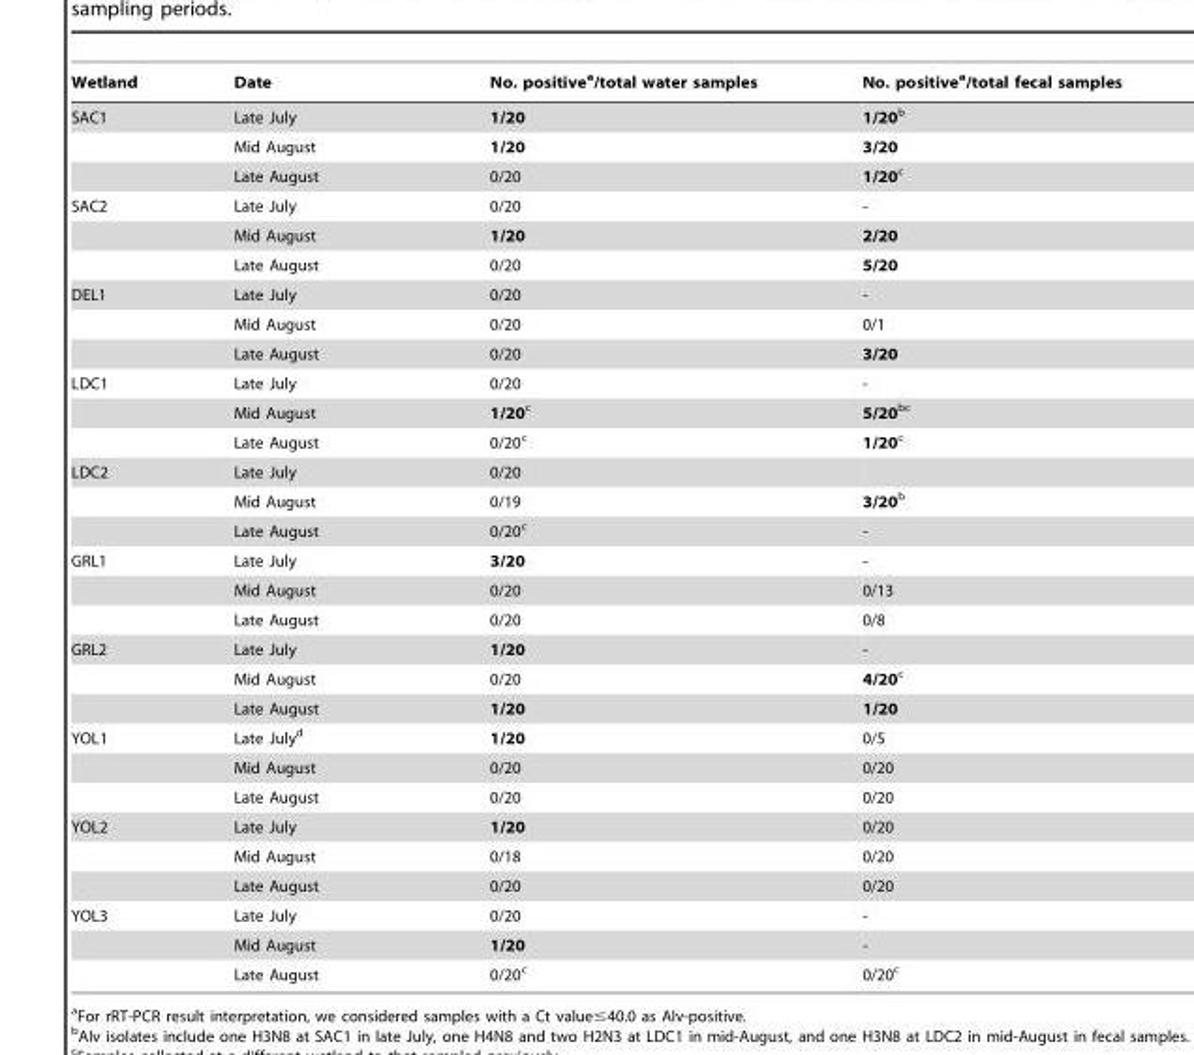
<table><thead><tr><td>Wetland</td><td>Date</td><td>No. positive<sup>a</sup>/total water samples</td><td>No. positive<sup>a</sup>/total fecal samples</td></tr></thead><tbody><tr><td rowspan="3">SAC1</td><td>Late July</td><td>1/20</td><td>1/20b</td></tr><tr><td>Mid August</td><td>1/20</td><td>3/20</td></tr><tr><td>Late August</td><td>0/20</td><td>1/20c</td></tr><tr><td rowspan="3">SAC2</td><td>Late July</td><td>0/20</td><td>-</td></tr><tr><td>Mid August</td><td>1/20</td><td>2/20</td></tr><tr><td>Late August</td><td>0/20</td><td>5/20</td></tr><tr><td rowspan="3">DEL1</td><td>Late July</td><td>0/20</td><td>-</td></tr><tr><td>Mid August</td><td>0/20</td><td>0/1</td></tr><tr><td>Late August</td><td>0/20</td><td>3/20</td></tr><tr><td rowspan="3">LDC1</td><td>Late July</td><td>0/20</td><td>-</td></tr><tr><td>Mid August</td><td>1/20c</td><td>5/20bc</td></tr><tr><td>Late August</td><td>0/20<sup>c</sup></td><td>1/20c</td></tr><tr><td rowspan="3">LDC2</td><td>Late July</td><td>0/20</td><td></td></tr><tr><td>Mid August</td><td>0/19</td><td>3/20b</td></tr><tr><td>Late August</td><td>0/20<sup>c</sup></td><td>-</td></tr><tr><td rowspan="3">GRL1</td><td>Late July</td><td>3/20</td><td>-</td></tr><tr><td>Mid August</td><td>0/20</td><td>0/13</td></tr><tr><td>Late August</td><td>0/20</td><td>0/8</td></tr><tr><td rowspan="3">GRL2</td><td>Late July</td><td>1/20</td><td>-</td></tr><tr><td>Mid August</td><td>0/20</td><td>4/20c</td></tr><tr><td>Late August</td><td>1/20</td><td>1/20</td></tr><tr><td rowspan="3">YOL1</td><td>Late July<sup>d</sup></td><td>1/20</td><td>0/5</td></tr><tr><td>Mid August</td><td>0/20</td><td>0/20</td></tr><tr><td>Late August</td><td>0/20</td><td>0/20</td></tr><tr><td rowspan="3">YOL2</td><td>Late July</td><td>1/20</td><td>0/20</td></tr><tr><td>Mid August</td><td>0/18</td><td>0/20</td></tr><tr><td>Late August</td><td>0/20</td><td>0/20</td></tr><tr><td rowspan="3">YOL3</td><td>Late July</td><td>0/20</td><td>-</td></tr><tr><td>Mid August</td><td>1/20</td><td>-</td></tr><tr><td>Late August</td><td>0/20<sup>c</sup></td><td>0/20<sup>c</sup></td></tr></tbody></table>